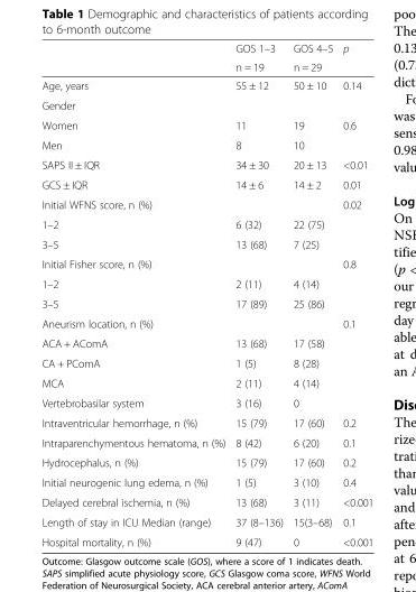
<table><thead><tr><td rowspan="2"></td><td rowspan="2">GOS 1–3 n = 19</td><td rowspan="2">GOS 4–5 n = 29</td><td rowspan="2">p</td></tr><tr></tr></thead><tbody><tr><td>Age, years</td><td>55 ± 12</td><td>50 ± 10</td><td>0.14</td></tr><tr><td colspan="4">Gender</td></tr><tr><td>Women</td><td>11</td><td>19</td><td>0.6</td></tr><tr><td>Men</td><td>8</td><td>10</td><td></td></tr><tr><td>SAPS II ± IQR</td><td>34 ± 30</td><td>20 ± 13</td><td>&lt;0.01</td></tr><tr><td>GCS ± IQR</td><td>14 ± 6</td><td>14 ± 2</td><td>0.01</td></tr><tr><td>Initial WFNS score, n (%)</td><td></td><td></td><td>0.02</td></tr><tr><td>1–2</td><td>6 (32)</td><td>22 (75)</td><td></td></tr><tr><td>3–5</td><td>13 (68)</td><td>7 (25)</td><td></td></tr><tr><td>Initial Fisher score, n (%)</td><td></td><td></td><td>0.8</td></tr><tr><td>1–2</td><td>2 (11)</td><td>4 (14)</td><td></td></tr><tr><td>3–5</td><td>17 (89)</td><td>25 (86)</td><td></td></tr><tr><td>Aneurism location, n (%)</td><td></td><td></td><td>0.1</td></tr><tr><td>ACA + AComA</td><td>13 (68)</td><td>17 (58)</td><td></td></tr><tr><td>CA + PComA</td><td>1 (5)</td><td>8 (28)</td><td></td></tr><tr><td>MCA</td><td>2 (11)</td><td>4 (14)</td><td></td></tr><tr><td>Vertebrobasilar system</td><td>3 (16)</td><td>0</td><td></td></tr><tr><td>Intraventricular hemorrhage, n (%)</td><td>15 (79)</td><td>17 (60)</td><td>0.2</td></tr><tr><td>Intraparenchymentous hematoma, n (%)</td><td>8 (42)</td><td>6 (20)</td><td>0.1</td></tr><tr><td>Hydrocephalus, n (%)</td><td>15 (79)</td><td>17 (60)</td><td>0.2</td></tr><tr><td>Initial neurogenic lung edema, n (%)</td><td>1 (5)</td><td>3 (10)</td><td>0.4</td></tr><tr><td>Delayed cerebral ischemia, n (%)</td><td>13 (68)</td><td>3 (11)</td><td>&lt;0.001</td></tr><tr><td>Length of stay in ICU Median (range)</td><td>37 (8–136)</td><td>15(3–68)</td><td>0.1</td></tr><tr><td>Hospital mortality, n (%)</td><td>9 (47)</td><td>0</td><td>&lt;0.001</td></tr></tbody></table>